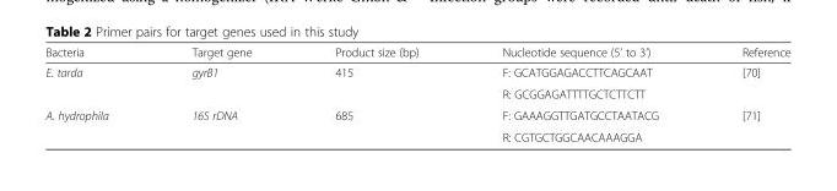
<table><thead><tr><td>Bacteria</td><td>Target gene</td><td>Product size (bp)</td><td>Nucleotide sequence (5’ to 3’)</td><td>Reference</td></tr></thead><tbody><tr><td rowspan="2">E. tarda</td><td rowspan="2">gyrB1</td><td rowspan="2">415</td><td>F: GCATGGAGACCTTCAGCAAT</td><td rowspan="2">[70]</td></tr><tr><td>R: GCGGAGATTTTGCTCTTCTT</td></tr><tr><td rowspan="2">A. hydrophila</td><td rowspan="2">16S rDNA</td><td rowspan="2">685</td><td>F: GAAAGGTTGATGCCTAATACG</td><td rowspan="2">[71]</td></tr><tr><td>R: CGTGCTGGCAACAAAGGA</td></tr></tbody></table>